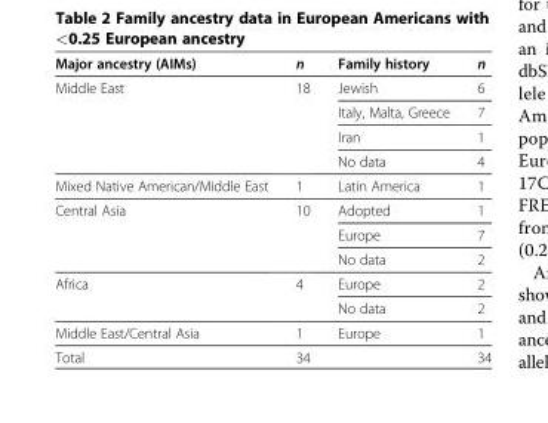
<table><thead><tr><td>Major ancestry (AIMs)</td><td>n</td><td>Family history</td><td>n</td></tr></thead><tbody><tr><td rowspan="4">Middle East</td><td rowspan="4">18</td><td>Jewish</td><td>6</td></tr><tr><td>Italy, Malta, Greece</td><td>7</td></tr><tr><td>Iran</td><td>1</td></tr><tr><td>No data</td><td>4</td></tr><tr><td>Mixed Native American/Middle East</td><td>1</td><td>Latin America</td><td>1</td></tr><tr><td rowspan="3">Central Asia</td><td rowspan="3">10</td><td>Adopted</td><td>1</td></tr><tr><td>Europe</td><td>7</td></tr><tr><td>No data</td><td>2</td></tr><tr><td rowspan="2">Africa</td><td rowspan="2">4</td><td>Europe</td><td>2</td></tr><tr><td>No data</td><td>2</td></tr><tr><td>Middle East/Central Asia</td><td>1</td><td>Europe</td><td>1</td></tr><tr><td>Total</td><td>34</td><td></td><td>34</td></tr></tbody></table>